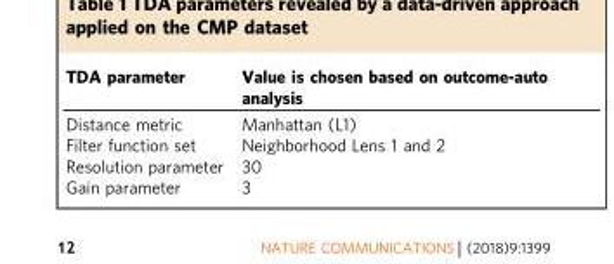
<table><thead><tr><td>TDA parameter</td><td>Value is chosen based on outcome-auto analysis</td></tr></thead><tbody><tr><td>Distance metric</td><td>Manhattan (L1)</td></tr><tr><td>Filter function set</td><td>Neighborhood Lens 1 and 2</td></tr><tr><td>Resolution parameter</td><td>30</td></tr><tr><td>Gain parameter</td><td>3</td></tr></tbody></table>